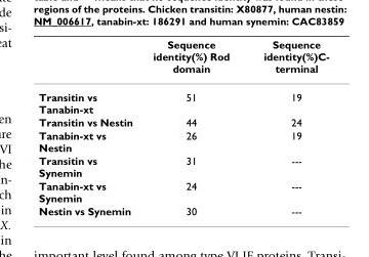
<table><thead><tr><td></td><td>Sequence identity(%) Rod domain</td><td>Sequence identity(%)C- terminal</td></tr></thead><tbody><tr><td>Transitin vs Tanabin-xt</td><td>51</td><td>19</td></tr><tr><td>Transitin vs Nestin</td><td>44</td><td>24</td></tr><tr><td>Tanabin-xt vs Nestin</td><td>26</td><td>19</td></tr><tr><td>Transitin vs Synemin</td><td>31</td><td>---</td></tr><tr><td>Tanabin-xt vs Synemin</td><td>24</td><td>---</td></tr><tr><td>Nestin vs Synemin</td><td>30</td><td>---</td></tr></tbody></table>